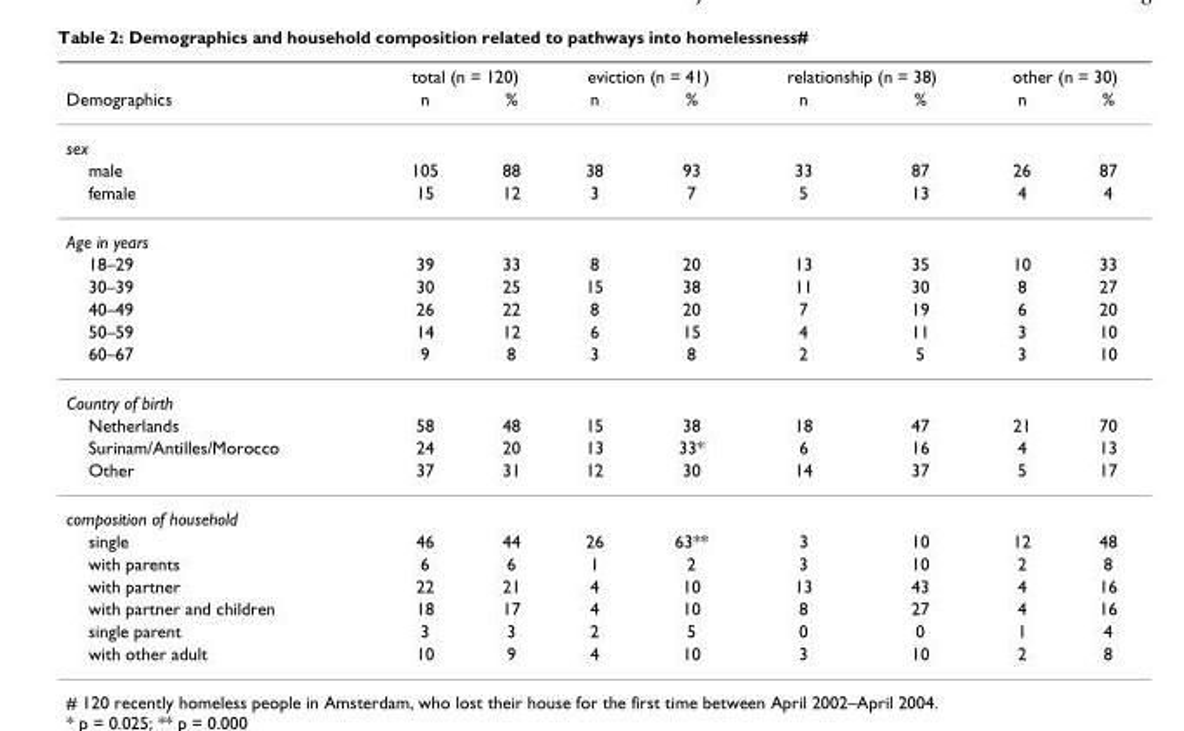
<table><thead><tr><td rowspan="2">Demographics</td><td colspan="2">total (n = 120)</td><td colspan="2">eviction (n = 41)</td><td colspan="2">relationship (n = 38)</td><td colspan="2">other (n = 30)</td></tr><tr><td>n</td><td>%</td><td>n</td><td>%</td><td>n</td><td>%</td><td>n</td><td>%</td></tr></thead><tbody><tr><td colspan="9">sex</td></tr><tr><td>male</td><td>105</td><td>88</td><td>38</td><td>93</td><td>33</td><td>87</td><td>26</td><td>87</td></tr><tr><td>female</td><td>15</td><td>12</td><td>3</td><td>7</td><td>5</td><td>13</td><td>4</td><td>4</td></tr><tr><td colspan="9">Age in years</td></tr><tr><td>18–29</td><td>39</td><td>33</td><td>8</td><td>20</td><td>13</td><td>35</td><td>10</td><td>33</td></tr><tr><td>30–39</td><td>30</td><td>25</td><td>15</td><td>38</td><td>11</td><td>30</td><td>8</td><td>27</td></tr><tr><td>40–49</td><td>26</td><td>22</td><td>8</td><td>20</td><td>7</td><td>19</td><td>6</td><td>20</td></tr><tr><td>50–59</td><td>14</td><td>12</td><td>6</td><td>15</td><td>4</td><td>11</td><td>3</td><td>10</td></tr><tr><td>60–67</td><td>9</td><td>8</td><td>3</td><td>8</td><td>2</td><td>5</td><td>3</td><td>10</td></tr><tr><td colspan="9">Country of birth</td></tr><tr><td>Netherlands</td><td>58</td><td>48</td><td>15</td><td>38</td><td>18</td><td>47</td><td>21</td><td>70</td></tr><tr><td>Surinam/Antilles/Morocco</td><td>24</td><td>20</td><td>13</td><td>33*</td><td>6</td><td>16</td><td>4</td><td>13</td></tr><tr><td>Other</td><td>37</td><td>31</td><td>12</td><td>30</td><td>14</td><td>37</td><td>5</td><td>17</td></tr><tr><td colspan="9">composition of household</td></tr><tr><td>single</td><td>46</td><td>44</td><td>26</td><td>63**</td><td>3</td><td>10</td><td>12</td><td>48</td></tr><tr><td>with parents</td><td>6</td><td>6</td><td>1</td><td>2</td><td>3</td><td>10</td><td>2</td><td>8</td></tr><tr><td>with partner</td><td>22</td><td>21</td><td>4</td><td>10</td><td>13</td><td>43</td><td>4</td><td>16</td></tr><tr><td>with partner and children</td><td>18</td><td>17</td><td>4</td><td>10</td><td>8</td><td>27</td><td>4</td><td>16</td></tr><tr><td>single parent</td><td>3</td><td>3</td><td>2</td><td>5</td><td>0</td><td>0</td><td>1</td><td>4</td></tr><tr><td>with other adult</td><td>10</td><td>9</td><td>4</td><td>10</td><td>3</td><td>10</td><td>2</td><td>8</td></tr></tbody></table>